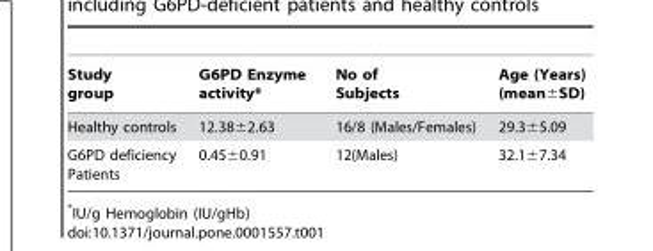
<table><thead><tr><td>Study group</td><td>G6PD Enzyme activity*</td><td>No of Subjects</td><td>Age (Years) (mean±SD)</td></tr></thead><tbody><tr><td>Healthy controls</td><td>12.38±2.63</td><td>16/8 (Males/Females)</td><td>29.3±5.09</td></tr><tr><td>G6PD deficiency Patients</td><td>0.45±0.91</td><td>12(Males)</td><td>32.1±7.34</td></tr></tbody></table>